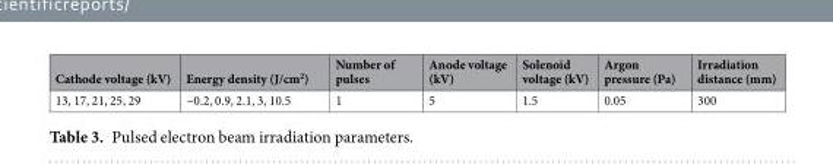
<table><thead><tr><td>Cathode voltage (kV)</td><td>Energy density (J/cm<sup>2</sup>)</td><td>Number of pulses</td><td>Anode voltage (kV)</td><td>Solenoid voltage (kV)</td><td>Argon pressure (Pa)</td><td>Irradiation distance (mm)</td></tr></thead><tbody><tr><td>13, 17, 21, 25, 29</td><td>~0.2, 0.9, 2.1, 3, 10.5</td><td>1</td><td>5</td><td>1.5</td><td>0.05</td><td>300</td></tr></tbody></table>